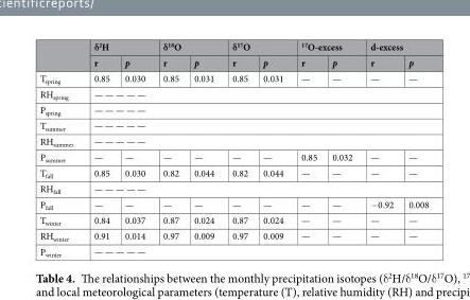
<table><thead><tr><td rowspan="2"></td><td colspan="2">δ<sup>2</sup>H</td><td colspan="2">δ<sup>18</sup>O</td><td colspan="2">δ<sup>17</sup>O</td><td colspan="2"><sup>17</sup>O-excess</td><td colspan="2">d-excess</td></tr><tr><td>r</td><td>p</td><td>r</td><td>p</td><td>r</td><td>p</td><td>r</td><td>p</td><td>r</td><td>p</td></tr></thead><tbody><tr><td>T<sub>spring</sub></td><td>0.85</td><td>0.030</td><td>0.85</td><td>0.031</td><td>0.85</td><td>0.031</td><td>—</td><td>—</td><td>—</td><td>—</td></tr><tr><td>RH<sub>spring</sub></td><td colspan="10">— — — — —</td></tr><tr><td>P<sub>spring</sub></td><td colspan="10">— — — — —</td></tr><tr><td>T<sub>summer</sub></td><td colspan="10">— — — — —</td></tr><tr><td>RH<sub>summer</sub></td><td colspan="10">— — — — —</td></tr><tr><td>P<sub>summer</sub></td><td>—</td><td>—</td><td>—</td><td>—</td><td>—</td><td>—</td><td>0.85</td><td>0.032</td><td>—</td><td>—</td></tr><tr><td>T<sub>fall</sub></td><td>0.85</td><td>0.030</td><td>0.82</td><td>0.044</td><td>0.82</td><td>0.044</td><td>—</td><td>—</td><td>—</td><td>—</td></tr><tr><td>RH<sub>fall</sub></td><td colspan="10">— — — — —</td></tr><tr><td>P<sub>fall</sub></td><td>—</td><td>—</td><td>—</td><td>—</td><td>—</td><td>—</td><td>—</td><td>—</td><td>−0.92</td><td>0.008</td></tr><tr><td>T<sub>winter</sub></td><td>0.84</td><td>0.037</td><td>0.87</td><td>0.024</td><td>0.87</td><td>0.024</td><td>—</td><td>—</td><td>—</td><td>—</td></tr><tr><td>RH<sub>winter</sub></td><td>0.91</td><td>0.014</td><td>0.97</td><td>0.009</td><td>0.97</td><td>0.009</td><td>—</td><td>—</td><td>—</td><td>—</td></tr><tr><td>P<sub>winter</sub></td><td colspan="10">— — — — —</td></tr></tbody></table>